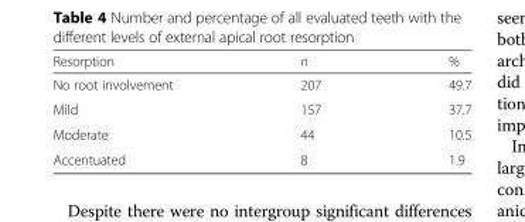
<table><thead><tr><td>Resorption</td><td>n</td><td>%</td></tr></thead><tbody><tr><td>No root involvement</td><td>207</td><td>49.7</td></tr><tr><td>Mild</td><td>157</td><td>37.7</td></tr><tr><td>Moderate</td><td>44</td><td>10.5</td></tr><tr><td>Accentuated</td><td>8</td><td>1.9</td></tr></tbody></table>